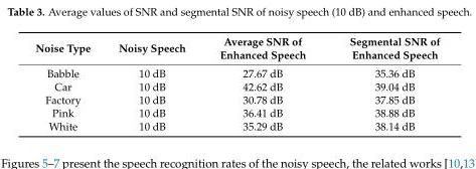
<table><thead><tr><td>Noise Type</td><td>Noisy Speech</td><td>Average SNR of Enhanced Speech</td><td>Segmental SNR of Enhanced Speech</td></tr></thead><tbody><tr><td>Babble</td><td>10 dB</td><td>27.67 dB</td><td>35.36 dB</td></tr><tr><td>Car</td><td>10 dB</td><td>42.62 dB</td><td>39.04 dB</td></tr><tr><td>Factory</td><td>10 dB</td><td>30.78 dB</td><td>37.85 dB</td></tr><tr><td>Pink</td><td>10 dB</td><td>36.41 dB</td><td>38.88 dB</td></tr><tr><td>White</td><td>10 dB</td><td>35.29 dB</td><td>38.14 dB</td></tr></tbody></table>